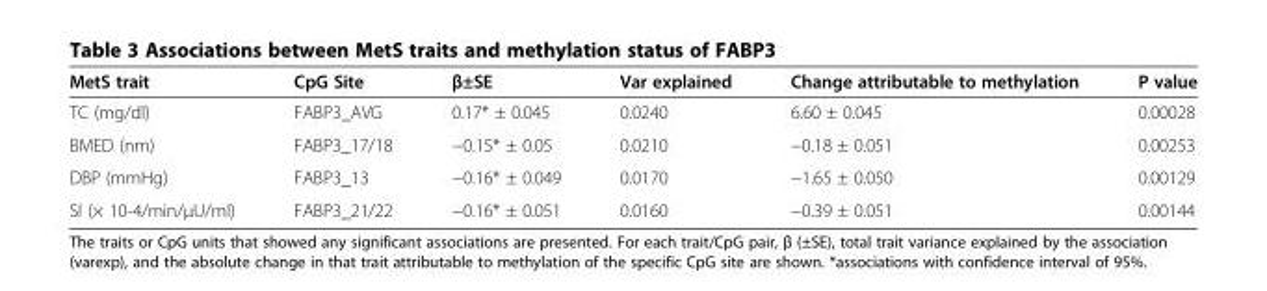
<table><thead><tr><td>MetS trait</td><td>CpG Site</td><td>β±SE</td><td>Var explained</td><td>Change attributable to methylation</td><td>P value</td></tr></thead><tbody><tr><td>TC (mg/dl)</td><td>FABP3_AVG</td><td>0.17* ± 0.045</td><td>0.0240</td><td>6.60 ± 0.045</td><td>0.00028</td></tr><tr><td>BMED (nm)</td><td>FABP3_17/18</td><td>−0.15* ± 0.05</td><td>0.0210</td><td>−0.18 ± 0.051</td><td>0.00253</td></tr><tr><td>DBP (mmHg)</td><td>FABP3_13</td><td>−0.16* ± 0.049</td><td>0.0170</td><td>−1.65 ± 0.050</td><td>0.00129</td></tr><tr><td>SI (× 10-4/min/μU/ml)</td><td>FABP3_21/22</td><td>−0.16* ± 0.051</td><td>0.0160</td><td>−0.39 ± 0.051</td><td>0.00144</td></tr></tbody></table>